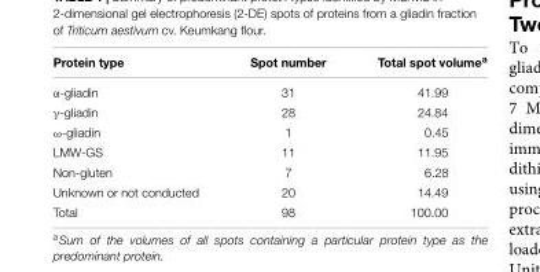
<table><thead><tr><td>Protein type</td><td>Spot number</td><td>Total spot volume<sup>a</sup></td></tr></thead><tbody><tr><td>α-gliadin</td><td>31</td><td>41.99</td></tr><tr><td>γ-gliadin</td><td>28</td><td>24.84</td></tr><tr><td>ω-gliadin</td><td>1</td><td>0.45</td></tr><tr><td>LMW-GS</td><td>11</td><td>11.95</td></tr><tr><td>Non-gluten</td><td>7</td><td>6.28</td></tr><tr><td>Unknown or not conducted</td><td>20</td><td>14.49</td></tr><tr><td>Total</td><td>98</td><td>100.00</td></tr></tbody></table>